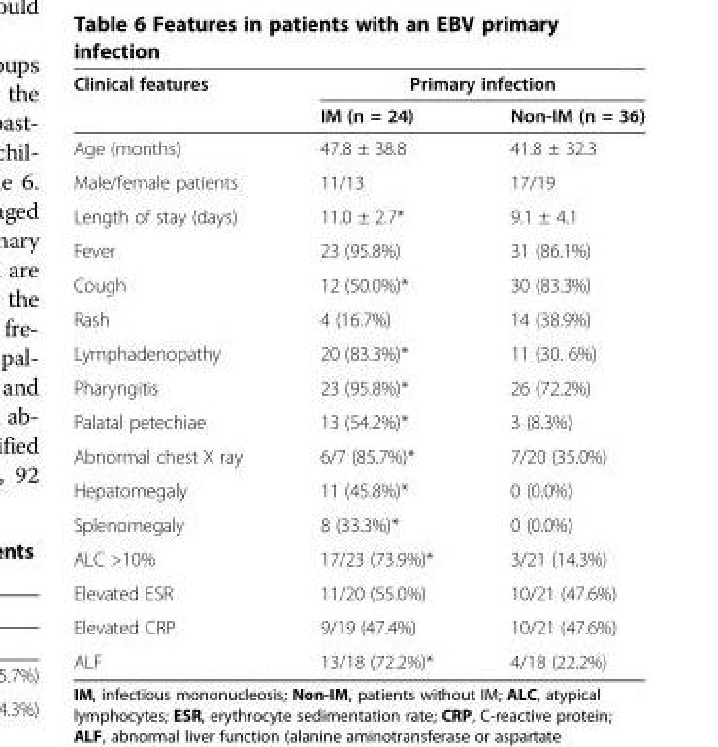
<table><thead><tr><td rowspan="2">Clinical features</td><td colspan="2">Primary infection</td></tr><tr><td>IM (n = 24)</td><td>Non-IM (n = 36)</td></tr></thead><tbody><tr><td>Age (months)</td><td>47.8 ± 38.8</td><td>41.8 ± 32.3</td></tr><tr><td>Male/female patients</td><td>11/13</td><td>17/19</td></tr><tr><td>Length of stay (days)</td><td>11.0 ± 2.7*</td><td>9.1 ± 4.1</td></tr><tr><td>Fever</td><td>23 (95.8%)</td><td>31 (86.1%)</td></tr><tr><td>Cough</td><td>12 (50.0%)*</td><td>30 (83.3%)</td></tr><tr><td>Rash</td><td>4 (16.7%)</td><td>14 (38.9%)</td></tr><tr><td>Lymphadenopathy</td><td>20 (83.3%)*</td><td>11 (30. 6%)</td></tr><tr><td>Pharyngitis</td><td>23 (95.8%)*</td><td>26 (72.2%)</td></tr><tr><td>Palatal petechiae</td><td>13 (54.2%)*</td><td>3 (8.3%)</td></tr><tr><td>Abnormal chest X ray</td><td>6/7 (85.7%)*</td><td>7/20 (35.0%)</td></tr><tr><td>Hepatomegaly</td><td>11 (45.8%)*</td><td>0 (0.0%)</td></tr><tr><td>Splenomegaly</td><td>8 (33.3%)*</td><td>0 (0.0%)</td></tr><tr><td>ALC &gt;10%</td><td>17/23 (73.9%)*</td><td>3/21 (14.3%)</td></tr><tr><td>Elevated ESR</td><td>11/20 (55.0%)</td><td>10/21 (47.6%)</td></tr><tr><td>Elevated CRP</td><td>9/19 (47.4%)</td><td>10/21 (47.6%)</td></tr><tr><td>ALF</td><td>13/18 (72.2%)*</td><td>4/18 (22.2%)</td></tr></tbody></table>